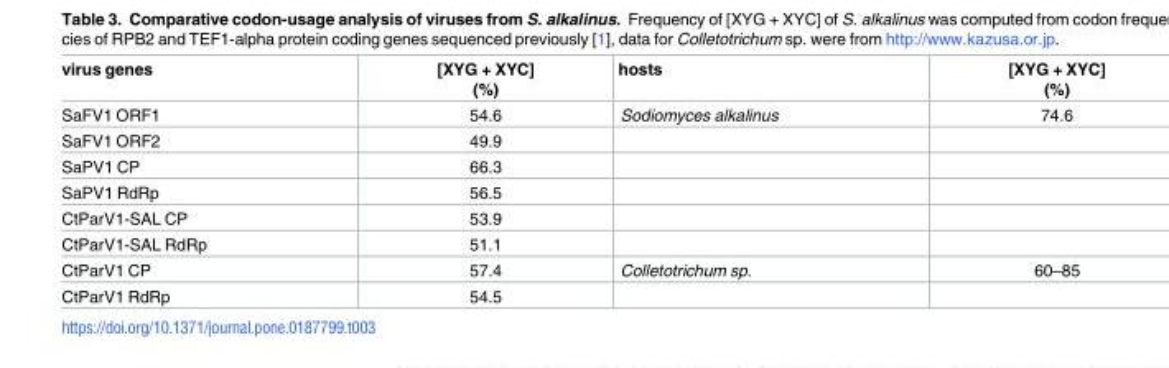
<table><thead><tr><td>virus genes</td><td>[XYG + XYC] (%)</td><td>hosts</td><td>[XYG + XYC] (%)</td></tr></thead><tbody><tr><td>SaFV1 ORF1</td><td>54.6</td><td>Sodiomyces alkalinus</td><td>74.6</td></tr><tr><td>SaFV1 ORF2</td><td>49.9</td><td></td><td></td></tr><tr><td>SaPV1 CP</td><td>66.3</td><td></td><td></td></tr><tr><td>SaPV1 RdRp</td><td>56.5</td><td></td><td></td></tr><tr><td>CtParV1-SAL CP</td><td>53.9</td><td></td><td></td></tr><tr><td>CtParV1-SAL RdRp</td><td>51.1</td><td></td><td></td></tr><tr><td>CtParV1 CP</td><td>57.4</td><td>Colletotrichum sp.</td><td>60–85</td></tr><tr><td>CtParV1 RdRp</td><td>54.5</td><td></td><td></td></tr></tbody></table>